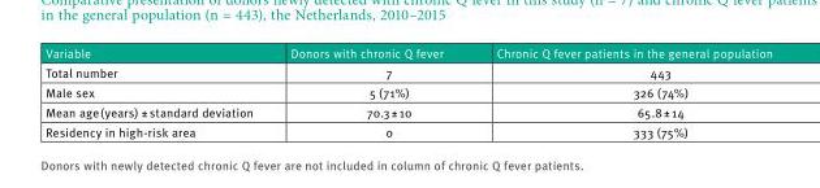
<table><thead><tr><td>Variable</td><td>Donors with chronic Q fever</td><td>Chronic Q fever patients in the general population</td></tr></thead><tbody><tr><td>Total number</td><td>7</td><td>443</td></tr><tr><td>Male sex</td><td>5 (71%)</td><td>326 (74%)</td></tr><tr><td>Mean age (years) ± standard deviation</td><td>70.3 ± 10</td><td>65.8 ± 14</td></tr><tr><td>Residency in high-risk area</td><td>0</td><td>333 (75%)</td></tr></tbody></table>